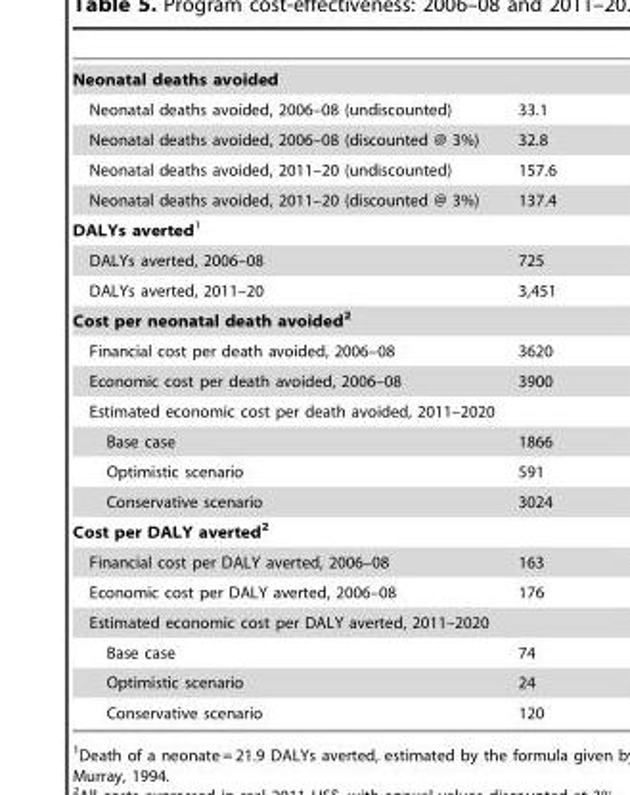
<table><tbody><tr><td colspan="2">Neonatal deaths avoided</td></tr><tr><td>Neonatal deaths avoided, 2006–08 (undiscounted)</td><td>33.1</td></tr><tr><td>Neonatal deaths avoided, 2006–08 (discounted @ 3%)</td><td>32.8</td></tr><tr><td>Neonatal deaths avoided, 2011–20 (undiscounted)</td><td>157.6</td></tr><tr><td>Neonatal deaths avoided, 2011–20 (discounted @ 3%)</td><td>137.4</td></tr><tr><td colspan="2">DALYs averted1</td></tr><tr><td>DALYs averted, 2006–08</td><td>725</td></tr><tr><td>DALYs averted, 2011–20</td><td>3,451</td></tr><tr><td colspan="2">Cost per neonatal death avoided2</td></tr><tr><td>Financial cost per death avoided, 2006–08</td><td>3620</td></tr><tr><td>Economic cost per death avoided, 2006–08</td><td>3900</td></tr><tr><td colspan="2">Estimated economic cost per death avoided, 2011–2020</td></tr><tr><td>Base case</td><td>1866</td></tr><tr><td>Optimistic scenario</td><td>591</td></tr><tr><td>Conservative scenario</td><td>3024</td></tr><tr><td colspan="2">Cost per DALY averted2</td></tr><tr><td>Financial cost per DALY averted, 2006–08</td><td>163</td></tr><tr><td>Economic cost per DALY averted, 2006–08</td><td>176</td></tr><tr><td colspan="2">Estimated economic cost per DALY averted, 2011–2020</td></tr><tr><td>Base case</td><td>74</td></tr><tr><td>Optimistic scenario</td><td>24</td></tr><tr><td>Conservative scenario</td><td>120</td></tr></tbody></table>